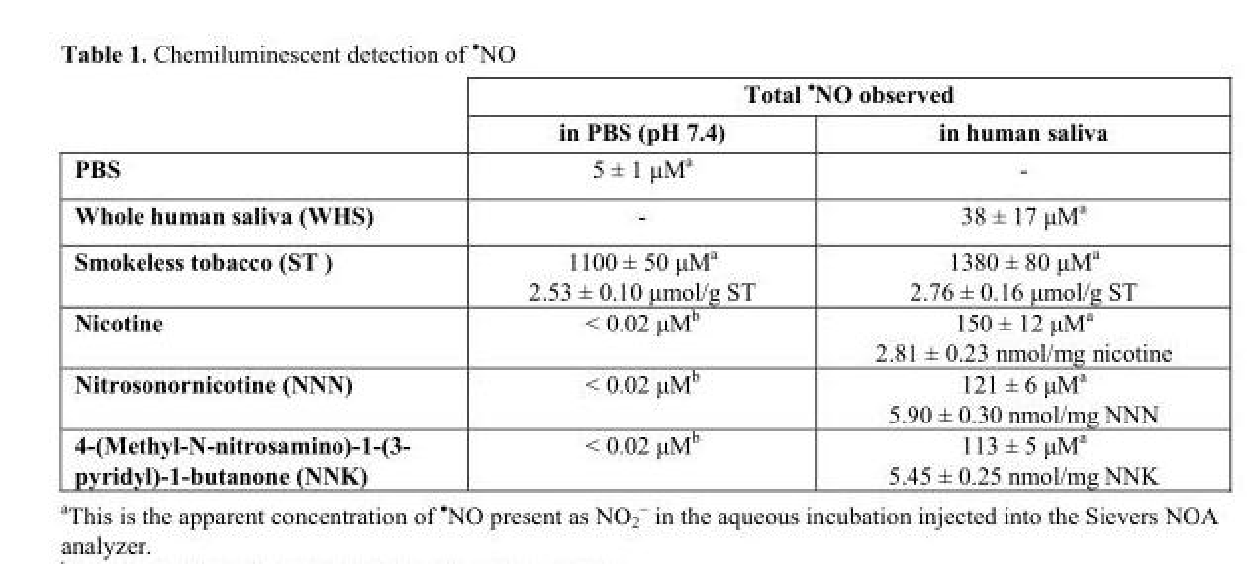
<table><thead><tr><td rowspan="2"></td><td colspan="2">Total <sup>•</sup>NO observed</td></tr><tr><td>in PBS (pH 7.4)</td><td>in human saliva</td></tr></thead><tbody><tr><td>PBS</td><td>5 ± 1 µM<sup>a</sup></td><td>-</td></tr><tr><td>Whole human saliva (WHS)</td><td>-</td><td>38 ± 17 µM<sup>a</sup></td></tr><tr><td>Smokeless tobacco (ST )</td><td>1100 ± 50 µM<sup>a</sup> 2.53 ± 0.10 µmol/g ST</td><td>1380 ± 80 µM<sup>a</sup> 2.76 ± 0.16 µmol/g ST</td></tr><tr><td>Nicotine</td><td>&lt; 0.02 µMb</td><td>150 ± 12 µM<sup>a</sup> 2.81 ± 0.23 nmol/mg nicotine</td></tr><tr><td>Nitrosonornicotine (NNN)</td><td>&lt; 0.02 µMb</td><td>121 ± 6 µMa 5.90 ± 0.30 nmol/mg NNN</td></tr><tr><td>4-(Methyl-N-nitrosamino)-1-(3- pyridyl)-1-butanone (NNK)</td><td>&lt; 0.02 µMb</td><td>113 ± 5 µMa 5.45 ± 0.25 nmol/mg NNK</td></tr></tbody></table>